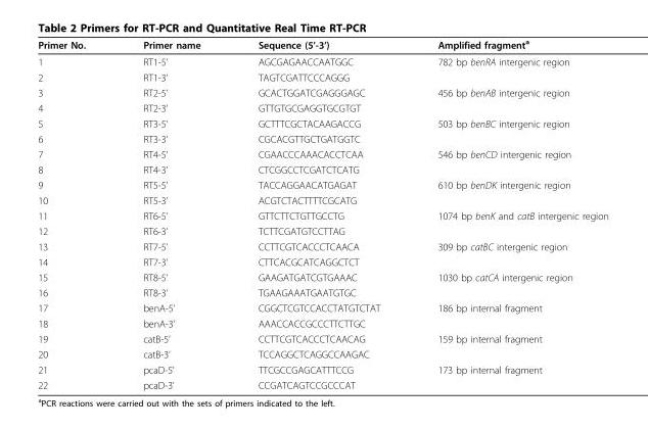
<table><thead><tr><td>Primer No.</td><td>Primer name</td><td>Sequence (5’-3’)</td><td>Amplified fragment<sup>a</sup></td></tr></thead><tbody><tr><td>1</td><td>RT1-5’</td><td>AGCGAGAACCAATGGC</td><td>782 bp benRA intergenic region</td></tr><tr><td>2</td><td>RT1-3’</td><td>TAGTCGATTCCCAGGG</td><td></td></tr><tr><td>3</td><td>RT2-5’</td><td>GCACTGGATCGAGGGAGC</td><td>456 bp benAB intergenic region</td></tr><tr><td>4</td><td>RT2-3’</td><td>GTTGTGCGAGGTGCGTGT</td><td></td></tr><tr><td>5</td><td>RT3-5’</td><td>GCTTTCGCTACAAGACCG</td><td>503 bp benBC intergenic region</td></tr><tr><td>6</td><td>RT3-3’</td><td>CGCACGTTGCTGATGGTC</td><td></td></tr><tr><td>7</td><td>RT4-5’</td><td>CGAACCCAAACACCTCAA</td><td>546 bp benCD intergenic region</td></tr><tr><td>8</td><td>RT4-3’</td><td>CTCGGCCTCGATCTCATG</td><td></td></tr><tr><td>9</td><td>RT5-5’</td><td>TACCAGGAACATGAGAT</td><td>610 bp benDK intergenic region</td></tr><tr><td>10</td><td>RT5-3’</td><td>ACGTCTACTTTTCGCATG</td><td></td></tr><tr><td>11</td><td>RT6-5’</td><td>GTTCTTCTGTTGCCTG</td><td>1074 bp benK and catB intergenic region</td></tr><tr><td>12</td><td>RT6-3’</td><td>TCTTCGATGTCCTTAG</td><td></td></tr><tr><td>13</td><td>RT7-5’</td><td>CCTTCGTCACCCTCAACA</td><td>309 bp catBC intergenic region</td></tr><tr><td>14</td><td>RT7-3’</td><td>CTTCACGCATCAGGCTCT</td><td></td></tr><tr><td>15</td><td>RT8-5’</td><td>GAAGATGATCGTGAAAC</td><td>1030 bp catCA intergenic region</td></tr><tr><td>16</td><td>RT8-3’</td><td>TGAAGAAATGAATGTGC</td><td></td></tr><tr><td>17</td><td>benA-5’</td><td>CGGCTCGTCCACCTATGTCTAT</td><td>186 bp internal fragment</td></tr><tr><td>18</td><td>benA-3’</td><td>AAACCACCGCCCTTCTTGC</td><td></td></tr><tr><td>19</td><td>catB-5’</td><td>CCTTCGTCACCCTCAACAG</td><td>159 bp internal fragment</td></tr><tr><td>20</td><td>catB-3’</td><td>TCCAGGCTCAGGCCAAGAC</td><td></td></tr><tr><td>21</td><td>pcaD-5’</td><td>TTCGCCGAGCATTTCCG</td><td>173 bp internal fragment</td></tr><tr><td>22</td><td>pcaD-3’</td><td>CCGATCAGTCCGCCCAT</td><td></td></tr></tbody></table>